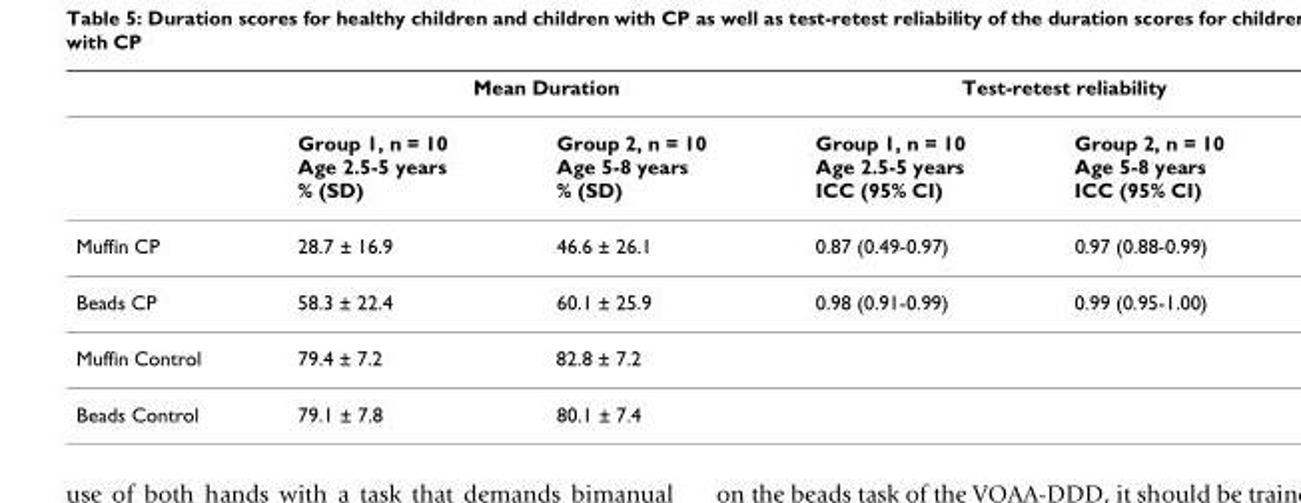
<table><thead><tr><td rowspan="2"></td><td colspan="2">Mean Duration</td><td colspan="2">Test-retest reliability</td></tr><tr><td>Group 1, n = 10 Age 2.5-5 years % (SD)</td><td>Group 2, n = 10 Age 5-8 years % (SD)</td><td>Group 1, n = 10 Age 2.5-5 years ICC (95% CI)</td><td>Group 2, n = 10 Age 5-8 years ICC (95% CI)</td></tr></thead><tbody><tr><td>Muffin CP</td><td>28.7 ± 16.9</td><td>46.6 ± 26.1</td><td>0.87 (0.49-0.97)</td><td>0.97 (0.88-0.99)</td></tr><tr><td>Beads CP</td><td>58.3 ± 22.4</td><td>60.1 ± 25.9</td><td>0.98 (0.91-0.99)</td><td>0.99 (0.95-1.00)</td></tr><tr><td>Muffin Control</td><td>79.4 ± 7.2</td><td>82.8 ± 7.2</td><td></td><td></td></tr><tr><td>Beads Control</td><td>79.1 ± 7.8</td><td>80.1 ± 7.4</td><td></td><td></td></tr></tbody></table>